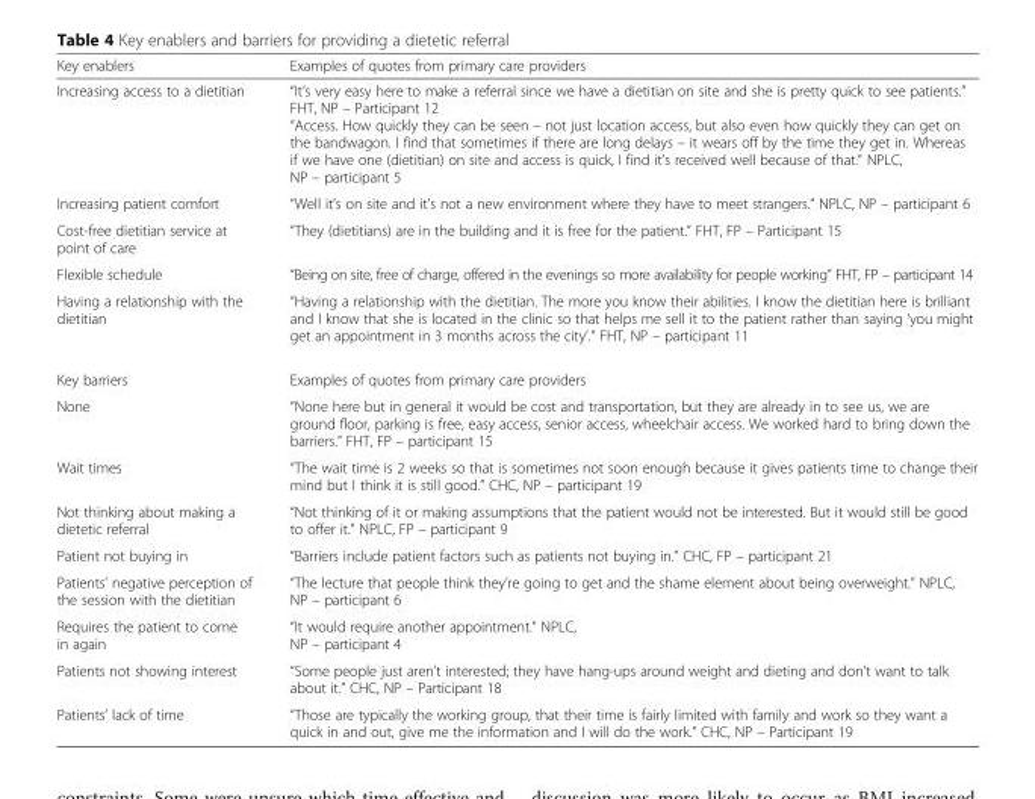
<table><thead><tr><td>Key enablers</td><td>Examples of quotes from primary care providers</td></tr></thead><tbody><tr><td>Increasing access to a dietitian</td><td>“It’s very easy here to make a referral since we have a dietitian on site and she is pretty quick to see patients.” FHT, NP – Participant 12 “Access. How quickly they can be seen – not just location access, but also even how quickly they can get on the bandwagon. I find that sometimes if there are long delays – it wears off by the time they get in. Whereas if we have one (dietitian) on site and access is quick, I find it’s received well because of that.” NPLC, NP – participant 5</td></tr><tr><td>Increasing patient comfort</td><td>“Well it’s on site and it’s not a new environment where they have to meet strangers.” NPLC, NP – participant 6</td></tr><tr><td>Cost-free dietitian service at point of care</td><td>“They (dietitians) are in the building and it is free for the patient.” FHT, FP – Participant 15</td></tr><tr><td>Flexible schedule</td><td>“Being on site, free of charge, offered in the evenings so more availability for people working” FHT, FP – participant 14</td></tr><tr><td>Having a relationship with the dietitian</td><td>“Having a relationship with the dietitian. The more you know their abilities. I know the dietitian here is brilliant and I know that she is located in the clinic so that helps me sell it to the patient rather than saying ‘you might get an appointment in 3 months across the city’.” FHT, NP – participant 11</td></tr><tr><td>Key barriers</td><td>Examples of quotes from primary care providers</td></tr><tr><td>None</td><td>“None here but in general it would be cost and transportation, but they are already in to see us, we are ground floor, parking is free, easy access, senior access, wheelchair access. We worked hard to bring down the barriers.” FHT, FP – participant 15</td></tr><tr><td>Wait times</td><td>“The wait time is 2 weeks so that is sometimes not soon enough because it gives patients time to change their mind but I think it is still good.” CHC, NP – participant 19</td></tr><tr><td>Not thinking about making a dietetic referral</td><td>“Not thinking of it or making assumptions that the patient would not be interested. But it would still be good to offer it.” NPLC, FP – participant 9</td></tr><tr><td>Patient not buying in</td><td>“Barriers include patient factors such as patients not buying in.” CHC, FP – participant 21</td></tr><tr><td>Patients’ negative perception of the session with the dietitian</td><td>“The lecture that people think they’re going to get and the shame element about being overweight.” NPLC, NP – participant 6</td></tr><tr><td>Requires the patient to come in again</td><td>“It would require another appointment.” NPLC, NP – participant 4</td></tr><tr><td>Patients not showing interest</td><td>“Some people just aren’t interested; they have hang-ups around weight and dieting and don’t want to talk about it.” CHC, NP – Participant 18</td></tr><tr><td>Patients’ lack of time</td><td>“Those are typically the working group, that their time is fairly limited with family and work so they want a quick in and out, give me the information and I will do the work.” CHC, NP – Participant 19</td></tr></tbody></table>